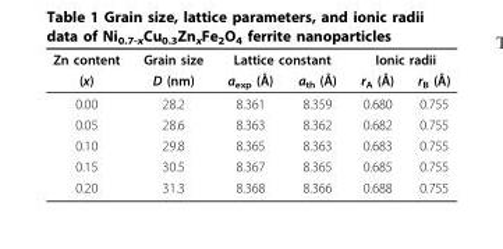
<table><thead><tr><td rowspan="2">Zn content (x)</td><td rowspan="2">Grain size D (nm)</td><td colspan="2">Lattice constant</td><td colspan="2">Ionic radii</td></tr><tr><td>a<sub>exp</sub> (Å)</td><td>a<sub>th</sub> (Å)</td><td>r<sub>A</sub> (Å)</td><td>r<sub>B</sub> (Å)</td></tr></thead><tbody><tr><td>0.00</td><td>28.2</td><td>8.361</td><td>8.359</td><td>0.680</td><td>0.755</td></tr><tr><td>0.05</td><td>28.6</td><td>8.363</td><td>8.362</td><td>0.682</td><td>0.755</td></tr><tr><td>0.10</td><td>29.8</td><td>8.365</td><td>8.363</td><td>0.683</td><td>0.755</td></tr><tr><td>0.15</td><td>30.5</td><td>8.367</td><td>8.365</td><td>0.685</td><td>0.755</td></tr><tr><td>0.20</td><td>31.3</td><td>8.368</td><td>8.366</td><td>0.688</td><td>0.755</td></tr></tbody></table>